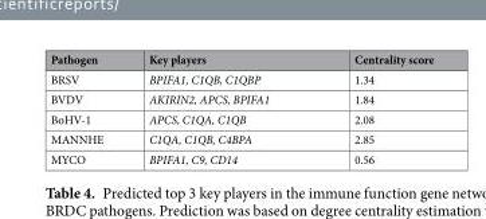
<table><thead><tr><td>Pathogen</td><td>Key players</td><td>Centrality score</td></tr></thead><tbody><tr><td>BRSV</td><td>BPIFA1, C1QB, C1QBP</td><td>1.34</td></tr><tr><td>BVDV</td><td>AKIRIN2, APCS, BPIFA1</td><td>1.84</td></tr><tr><td>BoHV-1</td><td>APCS, C1QA, C1QB</td><td>2.08</td></tr><tr><td>MANNHE</td><td>C1QA, C1QB, C4BPA</td><td>2.85</td></tr><tr><td>MYCO</td><td>BPIFA1, C9, CD14</td><td>0.56</td></tr></tbody></table>